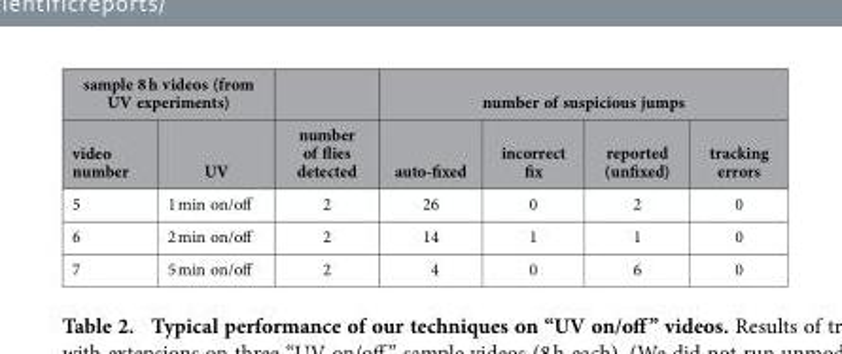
<table><thead><tr><td colspan="2">sample 8 h videos (from UV experiments)</td><td rowspan="2">number of flies detected</td><td colspan="4">number of suspicious jumps</td></tr><tr><td>video number</td><td>UV</td><td>auto-fixed</td><td>incorrect fix</td><td>reported (unfixed)</td><td>tracking errors</td></tr></thead><tbody><tr><td>5</td><td>1 min on/off</td><td>2</td><td>26</td><td>0</td><td>2</td><td>0</td></tr><tr><td>6</td><td>2 min on/off</td><td>2</td><td>14</td><td>1</td><td>1</td><td>0</td></tr><tr><td>7</td><td>5 min on/off</td><td>2</td><td>4</td><td>0</td><td>6</td><td>0</td></tr></tbody></table>